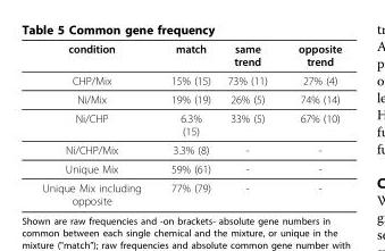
<table><thead><tr><td>condition</td><td>match</td><td>same trend</td><td>opposite trend</td></tr></thead><tbody><tr><td>CHP/Mix</td><td>15% (15)</td><td>73% (11)</td><td>27% (4)</td></tr><tr><td>Ni/Mix</td><td>19% (19)</td><td>26% (5)</td><td>74% (14)</td></tr><tr><td>Ni/CHP</td><td>6.3% (15)</td><td>33% (5)</td><td>67% (10)</td></tr><tr><td>Ni/CHP/Mix</td><td>3.3% (8)</td><td>-</td><td>-</td></tr><tr><td>Unique Mix</td><td>59% (61)</td><td>-</td><td>-</td></tr><tr><td>Unique Mix including opposite</td><td>77% (79)</td><td>-</td><td>-</td></tr></tbody></table>